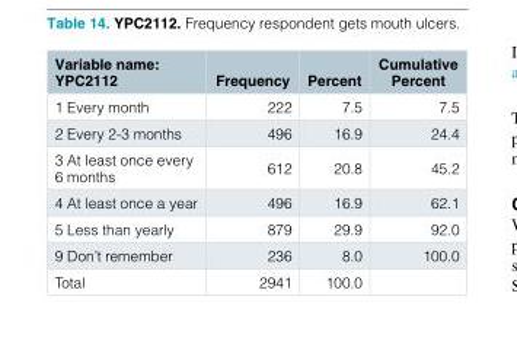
<table><thead><tr><td>Variable name: YPC2112</td><td>Frequency</td><td>Percent</td><td>Cumulative Percent</td></tr></thead><tbody><tr><td>1 Every month</td><td>222</td><td>7.5</td><td>7.5</td></tr><tr><td>2 Every 2-3 months</td><td>496</td><td>16.9</td><td>24.4</td></tr><tr><td>3 At least once every 6 months</td><td>612</td><td>20.8</td><td>45.2</td></tr><tr><td>4 At least once a year</td><td>496</td><td>16.9</td><td>62.1</td></tr><tr><td>5 Less than yearly</td><td>879</td><td>29.9</td><td>92.0</td></tr><tr><td>9 Don’t remember</td><td>236</td><td>8.0</td><td>100.0</td></tr><tr><td>Total</td><td>2941</td><td>100.0</td><td></td></tr></tbody></table>